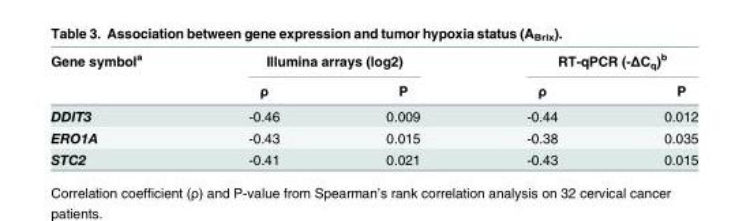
<table><thead><tr><td rowspan="2">Gene symbol<sup>a</sup></td><td colspan="2">Illumina arrays (log2)</td><td colspan="2">RT-qPCR (-ΔC<sub>q</sub>)<sup>b</sup></td></tr><tr><td>ρ</td><td>P</td><td>ρ</td><td>P</td></tr></thead><tbody><tr><td>DDIT3</td><td>-0.46</td><td>0.009</td><td>-0.44</td><td>0.012</td></tr><tr><td>ERO1A</td><td>-0.43</td><td>0.015</td><td>-0.38</td><td>0.035</td></tr><tr><td>STC2</td><td>-0.41</td><td>0.021</td><td>-0.43</td><td>0.015</td></tr></tbody></table>